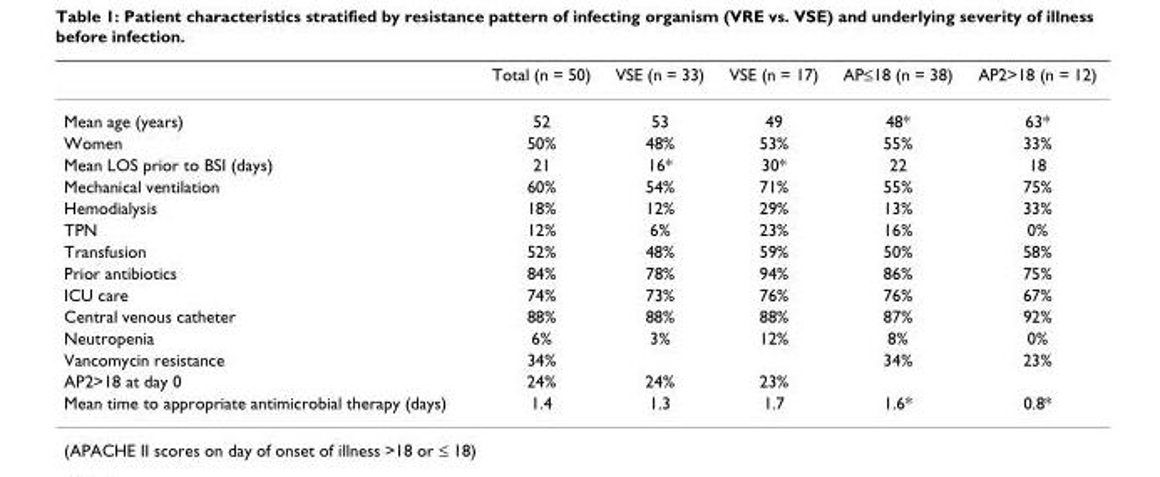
<table><thead><tr><td></td><td>Total (n = 50)</td><td>VSE (n = 33)</td><td>VSE (n = 17)</td><td>AP≤18 (n = 38)</td><td>AP2&gt;18 (n = 12)</td></tr></thead><tbody><tr><td>Mean age (years)</td><td>52</td><td>53</td><td>49</td><td>48*</td><td>63*</td></tr><tr><td>Women</td><td>50%</td><td>48%</td><td>53%</td><td>55%</td><td>33%</td></tr><tr><td>Mean LOS prior to BSI (days)</td><td>21</td><td>16*</td><td>30*</td><td>22</td><td>18</td></tr><tr><td>Mechanical ventilation</td><td>60%</td><td>54%</td><td>71%</td><td>55%</td><td>75%</td></tr><tr><td>Hemodialysis</td><td>18%</td><td>12%</td><td>29%</td><td>13%</td><td>33%</td></tr><tr><td>TPN</td><td>12%</td><td>6%</td><td>23%</td><td>16%</td><td>0%</td></tr><tr><td>Transfusion</td><td>52%</td><td>48%</td><td>59%</td><td>50%</td><td>58%</td></tr><tr><td>Prior antibiotics</td><td>84%</td><td>78%</td><td>94%</td><td>86%</td><td>75%</td></tr><tr><td>ICU care</td><td>74%</td><td>73%</td><td>76%</td><td>76%</td><td>67%</td></tr><tr><td>Central venous catheter</td><td>88%</td><td>88%</td><td>88%</td><td>87%</td><td>92%</td></tr><tr><td>Neutropenia</td><td>6%</td><td>3%</td><td>12%</td><td>8%</td><td>0%</td></tr><tr><td>Vancomycin resistance</td><td>34%</td><td></td><td></td><td>34%</td><td>23%</td></tr><tr><td>AP2&gt;18 at day 0</td><td>24%</td><td>24%</td><td>23%</td><td></td><td></td></tr><tr><td>Mean time to appropriate antimicrobial therapy (days)</td><td>1.4</td><td>1.3</td><td>1.7</td><td>1.6*</td><td>0.8*</td></tr></tbody></table>